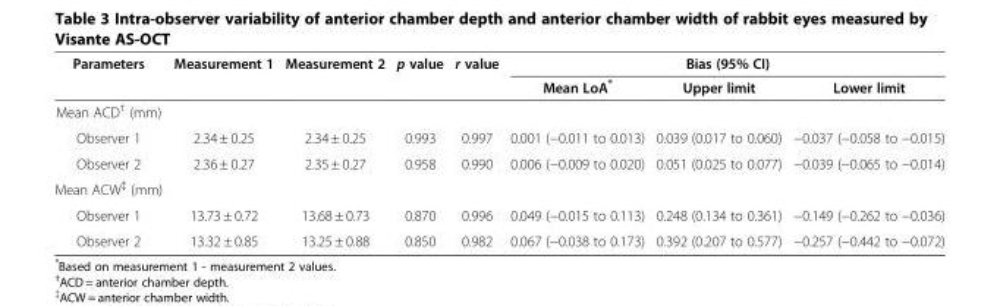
<table><thead><tr><td rowspan="2">Parameters</td><td rowspan="2">Measurement 1</td><td rowspan="2">Measurement 2</td><td rowspan="2">p value</td><td rowspan="2">r value</td><td rowspan="2">Mean LoA*</td><td rowspan="2">Bias (95% CI) Upper limit</td><td rowspan="2">Lower limit</td></tr><tr></tr></thead><tbody><tr><td colspan="8">Mean ACD<sup>†</sup> (mm)</td></tr><tr><td>Observer 1</td><td>2.34 ± 0.25</td><td>2.34 ± 0.25</td><td>0.993</td><td>0.997</td><td>0.001 (−0.011 to 0.013)</td><td>0.039 (0.017 to 0.060)</td><td>−0.037 (−0.058 to −0.015)</td></tr><tr><td>Observer 2</td><td>2.36 ± 0.27</td><td>2.35 ± 0.27</td><td>0.958</td><td>0.990</td><td>0.006 (−0.009 to 0.020)</td><td>0.051 (0.025 to 0.077)</td><td>−0.039 (−0.065 to −0.014)</td></tr><tr><td colspan="8">Mean ACW<sup>‡</sup> (mm)</td></tr><tr><td>Observer 1</td><td>13.73 ± 0.72</td><td>13.68 ± 0.73</td><td>0.870</td><td>0.996</td><td>0.049 (−0.015 to 0.113)</td><td>0.248 (0.134 to 0.361)</td><td>−0.149 (−0.262 to −0.036)</td></tr><tr><td>Observer 2</td><td>13.32 ± 0.85</td><td>13.25 ± 0.88</td><td>0.850</td><td>0.982</td><td>0.067 (−0.038 to 0.173)</td><td>0.392 (0.207 to 0.577)</td><td>−0.257 (−0.442 to −0.072)</td></tr></tbody></table>